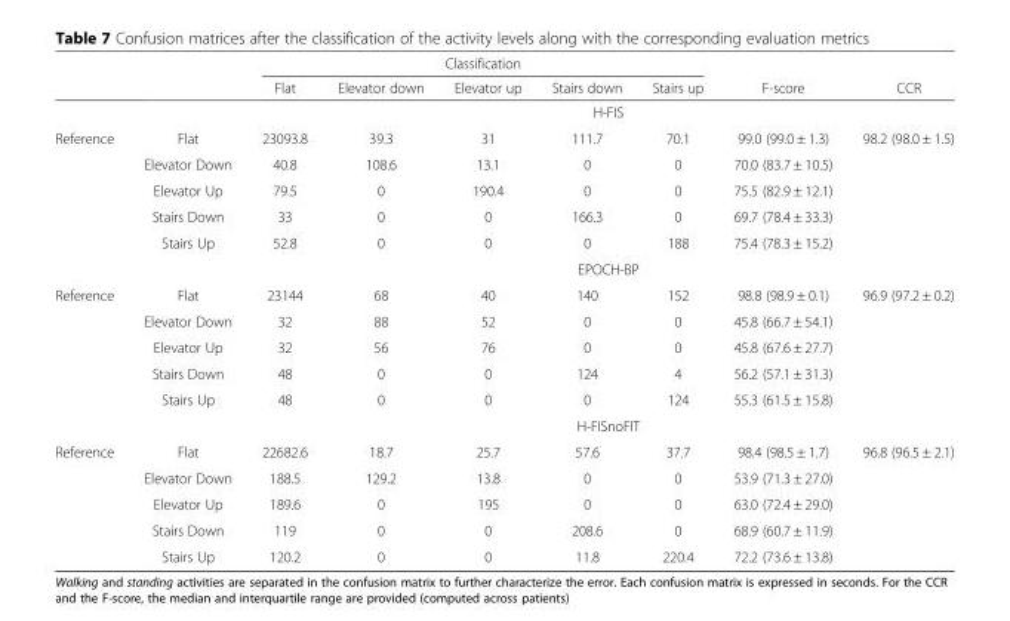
<table><thead><tr><td rowspan="2"></td><td rowspan="2"></td><td colspan="5">Classification</td><td rowspan="2">F-score</td><td rowspan="2">CCR</td></tr><tr><td>Flat</td><td>Elevator down</td><td>Elevator up</td><td>Stairs down</td><td>Stairs up</td></tr></thead><tbody><tr><td></td><td></td><td colspan="7">H-FIS</td></tr><tr><td rowspan="6">Reference</td><td>Flat</td><td>23093.8</td><td>39.3</td><td>31</td><td>111.7</td><td>70.1</td><td>99.0 (99.0 ± 1.3)</td><td rowspan="5">98.2 (98.0 ± 1.5)</td></tr><tr><td>Elevator Down</td><td>40.8</td><td>108.6</td><td>13.1</td><td>0</td><td>0</td><td>70.0 (83.7 ± 10.5)</td></tr><tr><td>Elevator Up</td><td>79.5</td><td>0</td><td>190.4</td><td>0</td><td>0</td><td>75.5 (82.9 ± 12.1)</td></tr><tr><td>Stairs Down</td><td>33</td><td>0</td><td>0</td><td>166.3</td><td>0</td><td>69.7 (78.4 ± 33.3)</td></tr><tr><td>Stairs Up</td><td>52.8</td><td>0</td><td>0</td><td>0</td><td>188</td><td>75.4 (78.3 ± 15.2)</td></tr><tr><td></td><td colspan="7">EPOCH-BP</td></tr><tr><td rowspan="6">Reference</td><td>Flat</td><td>23144</td><td>68</td><td>40</td><td>140</td><td>152</td><td>98.8 (98.9 ± 0.1)</td><td rowspan="5">96.9 (97.2 ± 0.2)</td></tr><tr><td>Elevator Down</td><td>32</td><td>88</td><td>52</td><td>0</td><td>0</td><td>45.8 (66.7 ± 54.1)</td></tr><tr><td>Elevator Up</td><td>32</td><td>56</td><td>76</td><td>0</td><td>0</td><td>45.8 (67.6 ± 27.7)</td></tr><tr><td>Stairs Down</td><td>48</td><td>0</td><td>0</td><td>124</td><td>4</td><td>56.2 (57.1 ± 31.3)</td></tr><tr><td>Stairs Up</td><td>48</td><td>0</td><td>0</td><td>0</td><td>124</td><td>55.3 (61.5 ± 15.8)</td></tr><tr><td></td><td colspan="7">H-FISnoFIT</td></tr><tr><td rowspan="5">Reference</td><td>Flat</td><td>22682.6</td><td>18.7</td><td>25.7</td><td>57.6</td><td>37.7</td><td>98.4 (98.5 ± 1.7)</td><td rowspan="5">96.8 (96.5 ± 2.1)</td></tr><tr><td>Elevator Down</td><td>188.5</td><td>129.2</td><td>13.8</td><td>0</td><td>0</td><td>53.9 (71.3 ± 27.0)</td></tr><tr><td>Elevator Up</td><td>189.6</td><td>0</td><td>195</td><td>0</td><td>0</td><td>63.0 (72.4 ± 29.0)</td></tr><tr><td>Stairs Down</td><td>119</td><td>0</td><td>0</td><td>208.6</td><td>0</td><td>68.9 (60.7 ± 11.9)</td></tr><tr><td>Stairs Up</td><td>120.2</td><td>0</td><td>0</td><td>11.8</td><td>220.4</td><td>72.2 (73.6 ± 13.8)</td></tr></tbody></table>